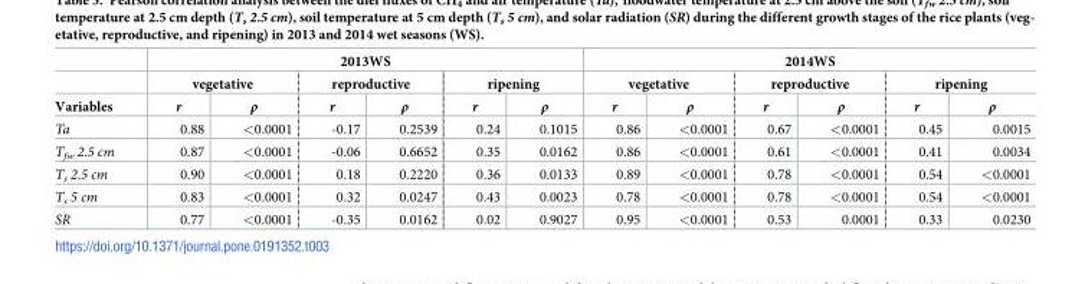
<table><thead><tr><td rowspan="3">Variables</td><td colspan="6">2013WS</td><td colspan="6">2014WS</td></tr><tr><td colspan="2">vegetative</td><td colspan="2">reproductive</td><td colspan="2">ripening</td><td colspan="2">vegetative</td><td colspan="2">reproductive</td><td colspan="2">ripening</td></tr><tr><td>r</td><td>ρ</td><td>r</td><td>ρ</td><td>r</td><td>ρ</td><td>r</td><td>ρ</td><td>r</td><td>ρ</td><td>r</td><td>ρ</td></tr></thead><tbody><tr><td>Ta</td><td>0.88</td><td>&lt;0.0001</td><td>-0.17</td><td>0.2539</td><td>0.24</td><td>0.1015</td><td>0.86</td><td>&lt;0.0001</td><td>0.67</td><td>&lt;0.0001</td><td>0.45</td><td>0.0015</td></tr><tr><td>T<sub>fw</sub> 2.5 cm</td><td>0.87</td><td>&lt;0.0001</td><td>-0.06</td><td>0.6652</td><td>0.35</td><td>0.0162</td><td>0.86</td><td>&lt;0.0001</td><td>0.61</td><td>&lt;0.0001</td><td>0.41</td><td>0.0034</td></tr><tr><td>T<sub>s</sub> 2.5 cm</td><td>0.90</td><td>&lt;0.0001</td><td>0.18</td><td>0.2220</td><td>0.36</td><td>0.0133</td><td>0.89</td><td>&lt;0.0001</td><td>0.78</td><td>&lt;0.0001</td><td>0.54</td><td>&lt;0.0001</td></tr><tr><td>T<sub>s</sub> 5 cm</td><td>0.83</td><td>&lt;0.0001</td><td>0.32</td><td>0.0247</td><td>0.43</td><td>0.0023</td><td>0.78</td><td>&lt;0.0001</td><td>0.78</td><td>&lt;0.0001</td><td>0.54</td><td>&lt;0.0001</td></tr><tr><td>SR</td><td>0.77</td><td>&lt;0.0001</td><td>-0.35</td><td>0.0162</td><td>0.02</td><td>0.9027</td><td>0.95</td><td>&lt;0.0001</td><td>0.53</td><td>0.0001</td><td>0.33</td><td>0.0230</td></tr></tbody></table>